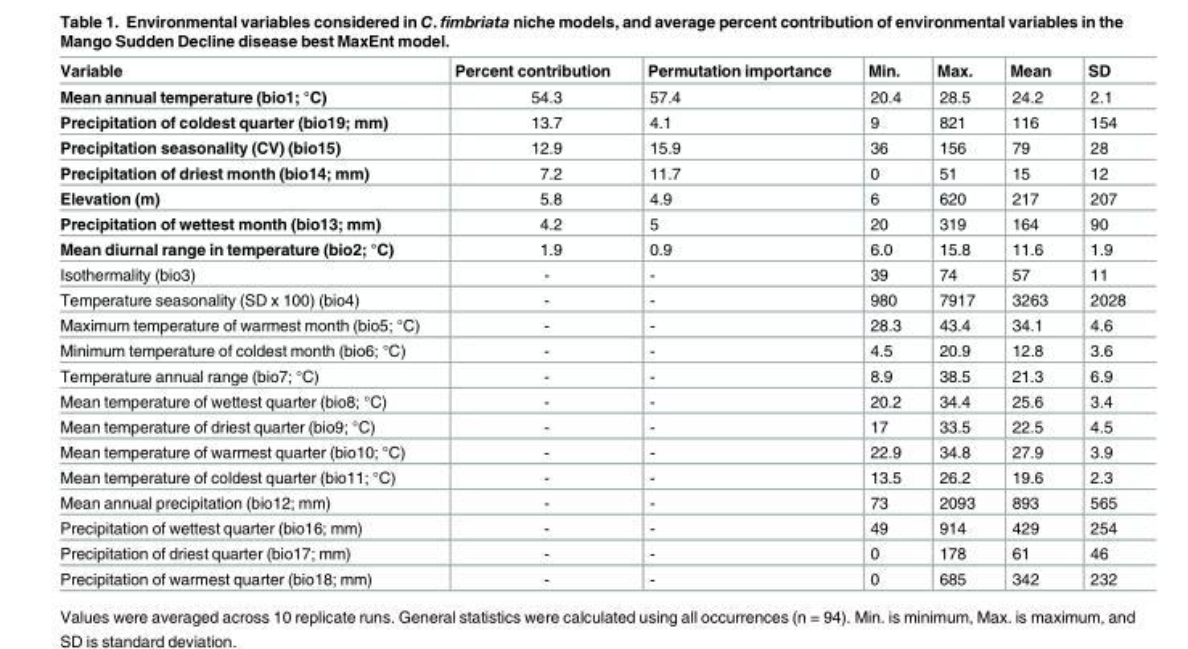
<table><thead><tr><td>Variable</td><td>Percent contribution</td><td>Permutation importance</td><td>Min.</td><td>Max.</td><td>Mean</td><td>SD</td></tr></thead><tbody><tr><td>Mean annual temperature (bio1; °C)</td><td>54.3</td><td>57.4</td><td>20.4</td><td>28.5</td><td>24.2</td><td>2.1</td></tr><tr><td>Precipitation of coldest quarter (bio19; mm)</td><td>13.7</td><td>4.1</td><td>9</td><td>821</td><td>116</td><td>154</td></tr><tr><td>Precipitation seasonality (CV) (bio15)</td><td>12.9</td><td>15.9</td><td>36</td><td>156</td><td>79</td><td>28</td></tr><tr><td>Precipitation of driest month (bio14; mm)</td><td>7.2</td><td>11.7</td><td>0</td><td>51</td><td>15</td><td>12</td></tr><tr><td>Elevation (m)</td><td>5.8</td><td>4.9</td><td>6</td><td>620</td><td>217</td><td>207</td></tr><tr><td>Precipitation of wettest month (bio13; mm)</td><td>4.2</td><td>5</td><td>20</td><td>319</td><td>164</td><td>90</td></tr><tr><td>Mean diurnal range in temperature (bio2; °C)</td><td>1.9</td><td>0.9</td><td>6.0</td><td>15.8</td><td>11.6</td><td>1.9</td></tr><tr><td>Isothermality (bio3)</td><td>-</td><td>-</td><td>39</td><td>74</td><td>57</td><td>11</td></tr><tr><td>Temperature seasonality (SD x 100) (bio4)</td><td>-</td><td>-</td><td>980</td><td>7917</td><td>3263</td><td>2028</td></tr><tr><td>Maximum temperature of warmest month (bio5; °C)</td><td>-</td><td>-</td><td>28.3</td><td>43.4</td><td>34.1</td><td>4.6</td></tr><tr><td>Minimum temperature of coldest month (bio6; °C)</td><td>-</td><td>-</td><td>4.5</td><td>20.9</td><td>12.8</td><td>3.6</td></tr><tr><td>Temperature annual range (bio7; °C)</td><td>-</td><td>-</td><td>8.9</td><td>38.5</td><td>21.3</td><td>6.9</td></tr><tr><td>Mean temperature of wettest quarter (bio8; °C)</td><td>-</td><td>-</td><td>20.2</td><td>34.4</td><td>25.6</td><td>3.4</td></tr><tr><td>Mean temperature of driest quarter (bio9; °C)</td><td>-</td><td>-</td><td>17</td><td>33.5</td><td>22.5</td><td>4.5</td></tr><tr><td>Mean temperature of warmest quarter (bio10; °C)</td><td>-</td><td>-</td><td>22.9</td><td>34.8</td><td>27.9</td><td>3.9</td></tr><tr><td>Mean temperature of coldest quarter (bio11; °C)</td><td>-</td><td>-</td><td>13.5</td><td>26.2</td><td>19.6</td><td>2.3</td></tr><tr><td>Mean annual precipitation (bio12; mm)</td><td>-</td><td>-</td><td>73</td><td>2093</td><td>893</td><td>565</td></tr><tr><td>Precipitation of wettest quarter (bio16; mm)</td><td>-</td><td>-</td><td>49</td><td>914</td><td>429</td><td>254</td></tr><tr><td>Precipitation of driest quarter (bio17; mm)</td><td>-</td><td>-</td><td>0</td><td>178</td><td>61</td><td>46</td></tr><tr><td>Precipitation of warmest quarter (bio18; mm)</td><td>-</td><td>-</td><td>0</td><td>685</td><td>342</td><td>232</td></tr></tbody></table>